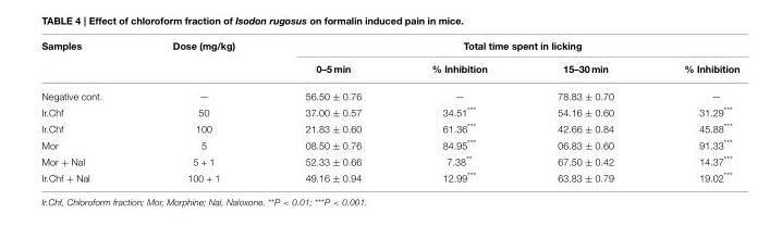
<table><thead><tr><td rowspan="2">Samples</td><td rowspan="2">Dose (mg/kg)</td><td colspan="4">Total time spent in licking</td></tr><tr><td>0–5 min</td><td>% Inhibition</td><td>15–30 min</td><td>% Inhibition</td></tr></thead><tbody><tr><td>Negative cont.</td><td>—</td><td>56.50 ± 0.76</td><td>—</td><td>78.83 ± 0.70</td><td>—</td></tr><tr><td>Ir.Chf</td><td>50</td><td>37.00 ± 0.57</td><td>34.51***</td><td>54.16 ± 0.60</td><td>31.29***</td></tr><tr><td>Ir.Chf</td><td>100</td><td>21.83 ± 0.60</td><td>61.36***</td><td>42.66 ± 0.84</td><td>45.88***</td></tr><tr><td>Mor</td><td>5</td><td>08.50 ± 0.76</td><td>84.95***</td><td>06.83 ± 0.60</td><td>91.33***</td></tr><tr><td>Mor + Nal</td><td>5 + 1</td><td>52.33 ± 0.66</td><td>7.38**</td><td>67.50 ± 0.42</td><td>14.37***</td></tr><tr><td>Ir.Chf + Nal</td><td>100 + 1</td><td>49.16 ± 0.94</td><td>12.99***</td><td>63.83 ± 0.79</td><td>19.02***</td></tr></tbody></table>